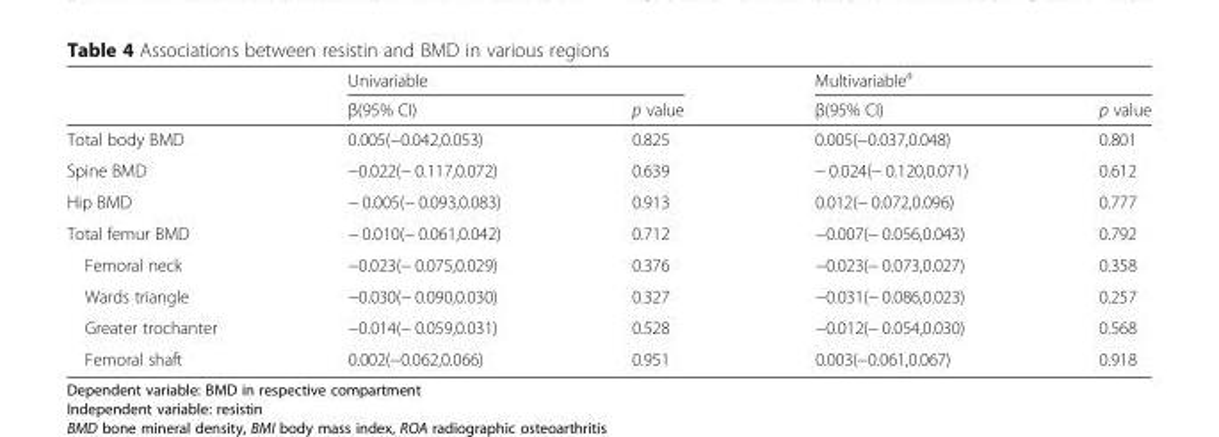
<table><thead><tr><td rowspan="2"></td><td colspan="2">Univariable</td><td colspan="2">Multivariable<sup>a</sup></td></tr><tr><td>β(95% CI)</td><td>p value</td><td>β(95% CI)</td><td>p value</td></tr></thead><tbody><tr><td>Total body BMD</td><td>0.005(−0.042,0.053)</td><td>0.825</td><td>0.005(−0.037,0.048)</td><td>0.801</td></tr><tr><td>Spine BMD</td><td>−0.022(− 0.117,0.072)</td><td>0.639</td><td>− 0.024(− 0.120,0.071)</td><td>0.612</td></tr><tr><td>Hip BMD</td><td>− 0.005(− 0.093,0.083)</td><td>0.913</td><td>0.012(− 0.072,0.096)</td><td>0.777</td></tr><tr><td>Total femur BMD</td><td>− 0.010(− 0.061,0.042)</td><td>0.712</td><td>−0.007(− 0.056,0.043)</td><td>0.792</td></tr><tr><td>Femoral neck</td><td>−0.023(− 0.075,0.029)</td><td>0.376</td><td>−0.023(− 0.073,0.027)</td><td>0.358</td></tr><tr><td>Wards triangle</td><td>−0.030(− 0.090,0.030)</td><td>0.327</td><td>−0.031(− 0.086,0.023)</td><td>0.257</td></tr><tr><td>Greater trochanter</td><td>−0.014(− 0.059,0.031)</td><td>0.528</td><td>−0.012(− 0.054,0.030)</td><td>0.568</td></tr><tr><td>Femoral shaft</td><td>0.002(−0.062,0.066)</td><td>0.951</td><td>0.003(−0.061,0.067)</td><td>0.918</td></tr></tbody></table>